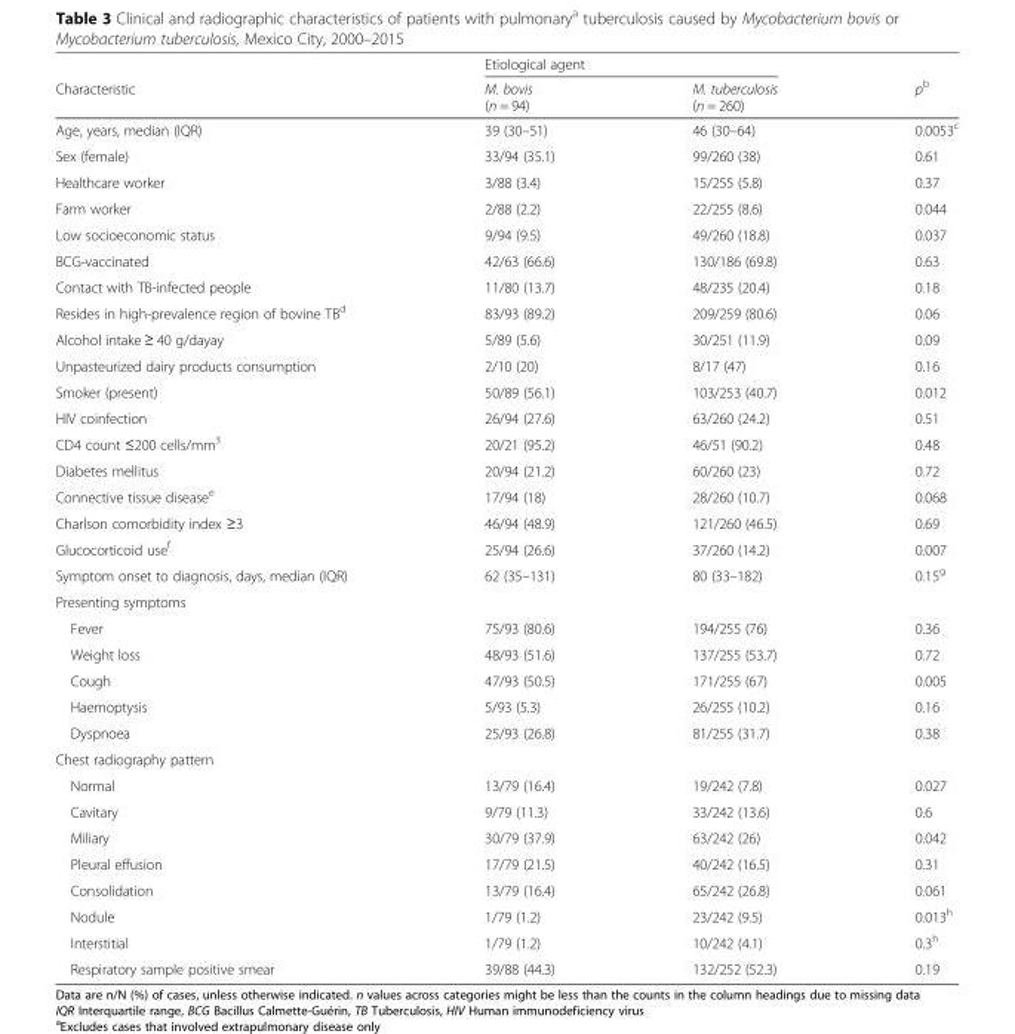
<table><thead><tr><td rowspan="2">Characteristic</td><td colspan="2">Etiological agent</td><td rowspan="2">p<sup>b</sup></td></tr><tr><td>M. bovis (n = 94)</td><td>M. tuberculosis (n = 260)</td></tr></thead><tbody><tr><td>Age, years, median (IQR)</td><td>39 (30–51)</td><td>46 (30–64)</td><td>0.0053<sup>c</sup></td></tr><tr><td>Sex (female)</td><td>33/94 (35.1)</td><td>99/260 (38)</td><td>0.61</td></tr><tr><td>Healthcare worker</td><td>3/88 (3.4)</td><td>15/255 (5.8)</td><td>0.37</td></tr><tr><td>Farm worker</td><td>2/88 (2.2)</td><td>22/255 (8.6)</td><td>0.044</td></tr><tr><td>Low socioeconomic status</td><td>9/94 (9.5)</td><td>49/260 (18.8)</td><td>0.037</td></tr><tr><td>BCG-vaccinated</td><td>42/63 (66.6)</td><td>130/186 (69.8)</td><td>0.63</td></tr><tr><td>Contact with TB-infected people</td><td>11/80 (13.7)</td><td>48/235 (20.4)</td><td>0.18</td></tr><tr><td>Resides in high-prevalence region of bovine TB<sup>d</sup></td><td>83/93 (89.2)</td><td>209/259 (80.6)</td><td>0.06</td></tr><tr><td>Alcohol intake ≥ 40 g/dayay</td><td>5/89 (5.6)</td><td>30/251 (11.9)</td><td>0.09</td></tr><tr><td>Unpasteurized dairy products consumption</td><td>2/10 (20)</td><td>8/17 (47)</td><td>0.16</td></tr><tr><td>Smoker (present)</td><td>50/89 (56.1)</td><td>103/253 (40.7)</td><td>0.012</td></tr><tr><td>HIV coinfection</td><td>26/94 (27.6)</td><td>63/260 (24.2)</td><td>0.51</td></tr><tr><td>CD4 count ≤200 cells/mm<sup>3</sup></td><td>20/21 (95.2)</td><td>46/51 (90.2)</td><td>0.48</td></tr><tr><td>Diabetes mellitus</td><td>20/94 (21.2)</td><td>60/260 (23)</td><td>0.72</td></tr><tr><td>Connective tissue disease<sup>e</sup></td><td>17/94 (18)</td><td>28/260 (10.7)</td><td>0.068</td></tr><tr><td>Charlson comorbidity index ≥3</td><td>46/94 (48.9)</td><td>121/260 (46.5)</td><td>0.69</td></tr><tr><td>Glucocorticoid use<sup>f</sup></td><td>25/94 (26.6)</td><td>37/260 (14.2)</td><td>0.007</td></tr><tr><td>Symptom onset to diagnosis, days, median (IQR)</td><td>62 (35–131)</td><td>80 (33–182)</td><td>0.15<sup>g</sup></td></tr><tr><td colspan="4">Presenting symptoms</td></tr><tr><td>Fever</td><td>75/93 (80.6)</td><td>194/255 (76)</td><td>0.36</td></tr><tr><td>Weight loss</td><td>48/93 (51.6)</td><td>137/255 (53.7)</td><td>0.72</td></tr><tr><td>Cough</td><td>47/93 (50.5)</td><td>171/255 (67)</td><td>0.005</td></tr><tr><td>Haemoptysis</td><td>5/93 (5.3)</td><td>26/255 (10.2)</td><td>0.16</td></tr><tr><td>Dyspnoea</td><td>25/93 (26.8)</td><td>81/255 (31.7)</td><td>0.38</td></tr><tr><td colspan="4">Chest radiography pattern</td></tr><tr><td>Normal</td><td>13/79 (16.4)</td><td>19/242 (7.8)</td><td>0.027</td></tr><tr><td>Cavitary</td><td>9/79 (11.3)</td><td>33/242 (13.6)</td><td>0.6</td></tr><tr><td>Miliary</td><td>30/79 (37.9)</td><td>63/242 (26)</td><td>0.042</td></tr><tr><td>Pleural effusion</td><td>17/79 (21.5)</td><td>40/242 (16.5)</td><td>0.31</td></tr><tr><td>Consolidation</td><td>13/79 (16.4)</td><td>65/242 (26.8)</td><td>0.061</td></tr><tr><td>Nodule</td><td>1/79 (1.2)</td><td>23/242 (9.5)</td><td>0.013<sup>h</sup></td></tr><tr><td>Interstitial</td><td>1/79 (1.2)</td><td>10/242 (4.1)</td><td>0.3<sup>h</sup></td></tr><tr><td>Respiratory sample positive smear</td><td>39/88 (44.3)</td><td>132/252 (52.3)</td><td>0.19</td></tr></tbody></table>